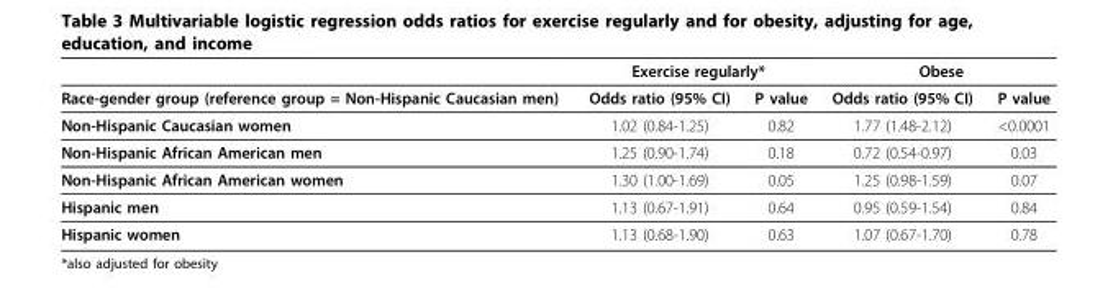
<table><thead><tr><td rowspan="2">Race-gender group (reference group = Non-Hispanic Caucasian men)</td><td colspan="2">Exercise regularly*</td><td colspan="2">Obese</td></tr><tr><td>Odds ratio (95% CI)</td><td>P value</td><td>Odds ratio (95% CI)</td><td>P value</td></tr></thead><tbody><tr><td>Non-Hispanic Caucasian women</td><td>1.02 (0.84-1.25)</td><td>0.82</td><td>1.77 (1.48-2.12)</td><td>&lt;0.0001</td></tr><tr><td>Non-Hispanic African American men</td><td>1.25 (0.90-1.74)</td><td>0.18</td><td>0.72 (0.54-0.97)</td><td>0.03</td></tr><tr><td>Non-Hispanic African American women</td><td>1.30 (1.00-1.69)</td><td>0.05</td><td>1.25 (0.98-1.59)</td><td>0.07</td></tr><tr><td>Hispanic men</td><td>1.13 (0.67-1.91)</td><td>0.64</td><td>0.95 (0.59-1.54)</td><td>0.84</td></tr><tr><td>Hispanic women</td><td>1.13 (0.68-1.90)</td><td>0.63</td><td>1.07 (0.67-1.70)</td><td>0.78</td></tr></tbody></table>